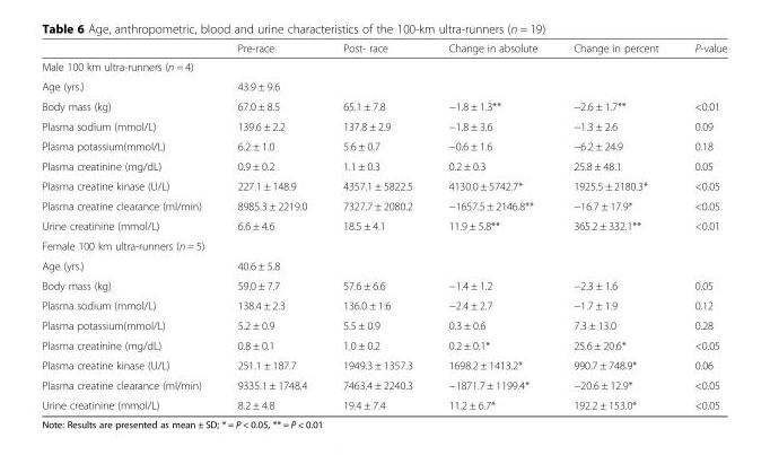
<table><thead><tr><td></td><td>Pre-race</td><td>Post- race</td><td>Change in absolute</td><td>Change in percent</td><td>P-value</td></tr></thead><tbody><tr><td colspan="6">Male 100 km ultra-runners (n = 4)</td></tr><tr><td>Age (yrs.)</td><td>43.9 ± 9.6</td><td></td><td></td><td></td><td></td></tr><tr><td>Body mass (kg)</td><td>67.0 ± 8.5</td><td>65.1 ± 7.8</td><td>−1.8 ± 1.3**</td><td>−2.6 ± 1.7**</td><td>&lt;0.01</td></tr><tr><td>Plasma sodium (mmol/L)</td><td>139.6 ± 2.2</td><td>137.8 ± 2.9</td><td>−1.8 ± 3.6</td><td>−1.3 ± 2.6</td><td>0.09</td></tr><tr><td>Plasma potassium(mmol/L)</td><td>6.2 ± 1.0</td><td>5.6 ± 0.7</td><td>−0.6 ± 1.6</td><td>−6.2 ± 24.9</td><td>0.18</td></tr><tr><td>Plasma creatinine (mg/dL)</td><td>0.9 ± 0.2</td><td>1.1 ± 0.3</td><td>0.2 ± 0.3</td><td>25.8 ± 48.1</td><td>0.05</td></tr><tr><td>Plasma creatine kinase (U/L)</td><td>227.1 ± 148.9</td><td>4357.1 ± 5822.5</td><td>4130.0 ± 5742.7*</td><td>1925.5 ± 2180.3*</td><td>&lt;0.05</td></tr><tr><td>Plasma creatine clearance (ml/min)</td><td>8985.3 ± 2219.0</td><td>7327.7 ± 2080.2</td><td>−1657.5 ± 2146.8**</td><td>−16.7 ± 17.9*</td><td>&lt;0.05</td></tr><tr><td>Urine creatinine (mmol/L)</td><td>6.6 ± 4.6</td><td>18.5 ± 4.1</td><td>11.9 ± 5.8**</td><td>365.2 ± 332.1**</td><td>&lt;0.01</td></tr><tr><td colspan="6">Female 100 km ultra-runners (n = 5)</td></tr><tr><td>Age (yrs.)</td><td>40.6 ± 5.8</td><td></td><td></td><td></td><td></td></tr><tr><td>Body mass (kg)</td><td>59.0 ± 7.7</td><td>57.6 ± 6.6</td><td>−1.4 ± 1.2</td><td>−2.3 ± 1.6</td><td>0.05</td></tr><tr><td>Plasma sodium (mmol/L)</td><td>138.4 ± 2.3</td><td>136.0 ± 1:6</td><td>−2.4 ± 2.7</td><td>−1.7 ± 1.9</td><td>0.12</td></tr><tr><td>Plasma potassium(mmol/L)</td><td>5.2 ± 0.9</td><td>5.5 ± 0.9</td><td>0.3 ± 0.6</td><td>7.3 ± 13.0</td><td>0.28</td></tr><tr><td>Plasma creatinine (mg/dL)</td><td>0.8 ± 0.1</td><td>1.0 ± 0.2</td><td>0.2 ± 0.1*</td><td>25.6 ± 20.6*</td><td>&lt;0.05</td></tr><tr><td>Plasma creatine kinase (U/L)</td><td>251.1 ± 187.7</td><td>1949.3 ± 1357.3</td><td>1698.2 ± 1413.2*</td><td>990.7 ± 748.9*</td><td>0.06</td></tr><tr><td>Plasma creatine clearance (ml/min)</td><td>9335.1 ± 1748.4</td><td>7463.4 ± 2240.3</td><td>−1871.7 ± 1199.4*</td><td>−20.6 ± 12.9*</td><td>&lt;0.05</td></tr><tr><td>Urine creatinine (mmol/L)</td><td>8.2 ± 4.8</td><td>19.4 ± 7.4</td><td>11.2 ± 6.7*</td><td>192.2 ± 153.0*</td><td>&lt;0.05</td></tr></tbody></table>